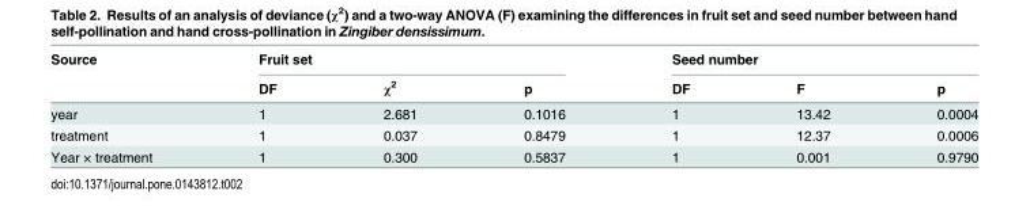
<table><thead><tr><td rowspan="2">Source</td><td colspan="3">Fruit set</td><td colspan="3">Seed number</td></tr><tr><td>DF</td><td>χ<sup>2</sup></td><td>p</td><td>DF</td><td>F</td><td>p</td></tr></thead><tbody><tr><td>year</td><td>1</td><td>2.681</td><td>0.1016</td><td>1</td><td>13.42</td><td>0.0004</td></tr><tr><td>treatment</td><td>1</td><td>0.037</td><td>0.8479</td><td>1</td><td>12.37</td><td>0.0006</td></tr><tr><td>Year × treatment</td><td>1</td><td>0.300</td><td>0.5837</td><td>1</td><td>0.001</td><td>0.9790</td></tr></tbody></table>